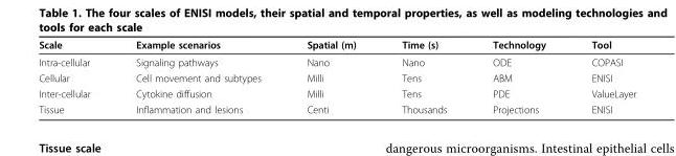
<table><thead><tr><td>Scale</td><td>Example scenarios</td><td>Spatial (m)</td><td>Time (s)</td><td>Technology</td><td>Tool</td></tr></thead><tbody><tr><td>Intra-cellular</td><td>Signaling pathways</td><td>Nano</td><td>Nano</td><td>ODE</td><td>COPASI</td></tr><tr><td>Cellular</td><td>Cell movement and subtypes</td><td>Milli</td><td>Tens</td><td>ABM</td><td>ENISI</td></tr><tr><td>Inter-cellular</td><td>Cytokine diffusion</td><td>Milli</td><td>Tens</td><td>PDE</td><td>ValueLayer</td></tr><tr><td>Tissue</td><td>Inflammation and lesions</td><td>Centi</td><td>Thousands</td><td>Projections</td><td>ENISI</td></tr></tbody></table>